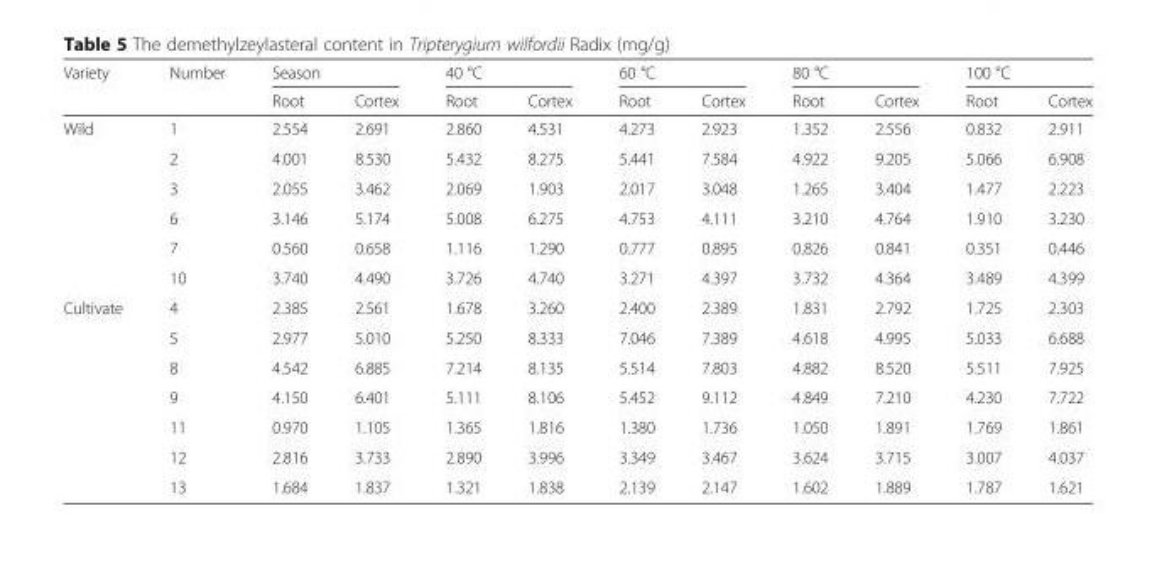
<table><thead><tr><td rowspan="2">Variety</td><td rowspan="2">Number</td><td colspan="2">Season</td><td colspan="2">40 °C</td><td colspan="2">60 °C</td><td colspan="2">80 °C</td><td colspan="2">100 °C</td></tr><tr><td>Root</td><td>Cortex</td><td>Root</td><td>Cortex</td><td>Root</td><td>Cortex</td><td>Root</td><td>Cortex</td><td>Root</td><td>Cortex</td></tr></thead><tbody><tr><td rowspan="6">Wild</td><td>1</td><td>2.554</td><td>2.691</td><td>2.860</td><td>4.531</td><td>4.273</td><td>2.923</td><td>1.352</td><td>2.556</td><td>0.832</td><td>2.911</td></tr><tr><td>2</td><td>4.001</td><td>8.530</td><td>5.432</td><td>8.275</td><td>5.441</td><td>7.584</td><td>4.922</td><td>9.205</td><td>5.066</td><td>6.908</td></tr><tr><td>3</td><td>2.055</td><td>3.462</td><td>2.069</td><td>1.903</td><td>2.017</td><td>3.048</td><td>1.265</td><td>3.404</td><td>1.477</td><td>2.223</td></tr><tr><td>6</td><td>3.146</td><td>5.174</td><td>5.008</td><td>6.275</td><td>4.753</td><td>4.111</td><td>3.210</td><td>4.764</td><td>1.910</td><td>3.230</td></tr><tr><td>7</td><td>0.560</td><td>0.658</td><td>1.116</td><td>1.290</td><td>0.777</td><td>0.895</td><td>0.826</td><td>0.841</td><td>0.351</td><td>0.446</td></tr><tr><td>10</td><td>3.740</td><td>4.490</td><td>3.726</td><td>4.740</td><td>3.271</td><td>4.397</td><td>3.732</td><td>4.364</td><td>3.489</td><td>4.399</td></tr><tr><td rowspan="7">Cultivate</td><td>4</td><td>2.385</td><td>2.561</td><td>1.678</td><td>3.260</td><td>2.400</td><td>2.389</td><td>1.831</td><td>2.792</td><td>1.725</td><td>2.303</td></tr><tr><td>5</td><td>2.977</td><td>5.010</td><td>5.250</td><td>8.333</td><td>7.046</td><td>7.389</td><td>4.618</td><td>4.995</td><td>5.033</td><td>6.688</td></tr><tr><td>8</td><td>4.542</td><td>6.885</td><td>7.214</td><td>8.135</td><td>5.514</td><td>7.803</td><td>4.882</td><td>8.520</td><td>5.511</td><td>7.925</td></tr><tr><td>9</td><td>4.150</td><td>6.401</td><td>5.111</td><td>8.106</td><td>5.452</td><td>9.112</td><td>4.849</td><td>7.210</td><td>4.230</td><td>7.722</td></tr><tr><td>11</td><td>0.970</td><td>1.105</td><td>1.365</td><td>1.816</td><td>1.380</td><td>1.736</td><td>1.050</td><td>1.891</td><td>1.769</td><td>1.861</td></tr><tr><td>12</td><td>2.816</td><td>3.733</td><td>2.890</td><td>3.996</td><td>3.349</td><td>3.467</td><td>3.624</td><td>3.715</td><td>3.007</td><td>4.037</td></tr><tr><td>13</td><td>1.684</td><td>1.837</td><td>1.321</td><td>1.838</td><td>2.139</td><td>2.147</td><td>1.602</td><td>1.889</td><td>1.787</td><td>1.621</td></tr></tbody></table>